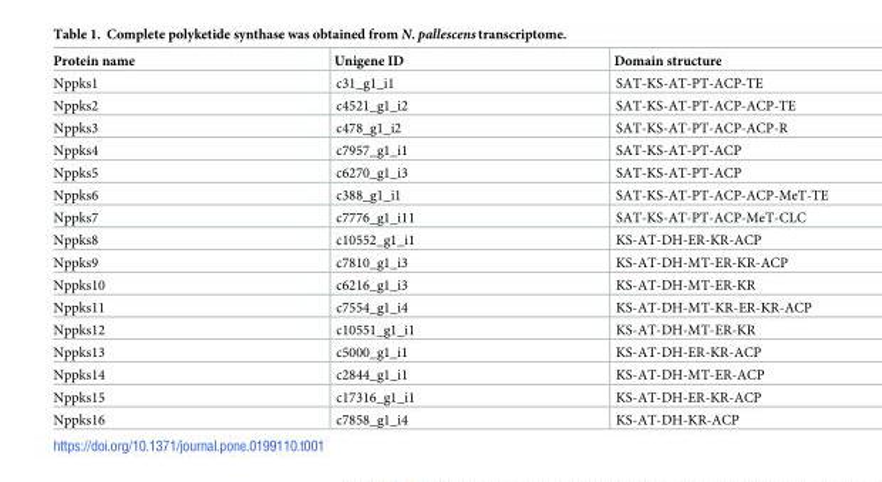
<table><thead><tr><td>Protein name</td><td>Unigene ID</td><td>Domain structure</td></tr></thead><tbody><tr><td>Nppks1</td><td>c31_g1_i1</td><td>SAT-KS-AT-PT-ACP-TE</td></tr><tr><td>Nppks2</td><td>c4521_g1_i2</td><td>SAT-KS-AT-PT-ACP-ACP-TE</td></tr><tr><td>Nppks3</td><td>c478_g1_i2</td><td>SAT-KS-AT-PT-ACP-ACP-R</td></tr><tr><td>Nppks4</td><td>c7957_g1_i1</td><td>SAT-KS-AT-PT-ACP</td></tr><tr><td>Nppks5</td><td>c6270_g1_i3</td><td>SAT-KS-AT-PT-ACP</td></tr><tr><td>Nppks6</td><td>c388_g1_i1</td><td>SAT-KS-AT-PT-ACP-ACP-MeT-TE</td></tr><tr><td>Nppks7</td><td>c7776_g1_i11</td><td>SAT-KS-AT-PT-ACP-MeT-CLC</td></tr><tr><td>Nppks8</td><td>c10552_g1_i1</td><td>KS-AT-DH-ER-KR-ACP</td></tr><tr><td>Nppks9</td><td>c7810_g1_i3</td><td>KS-AT-DH-MT-ER-KR-ACP</td></tr><tr><td>Nppks10</td><td>c6216_g1_i3</td><td>KS-AT-DH-MT-ER-KR</td></tr><tr><td>Nppks11</td><td>c7554_g1_i4</td><td>KS-AT-DH-MT-KR-ER-KR-ACP</td></tr><tr><td>Nppks12</td><td>c10551_g1_i1</td><td>KS-AT-DH-MT-ER-KR</td></tr><tr><td>Nppks13</td><td>c5000_g1_i1</td><td>KS-AT-DH-ER-KR-ACP</td></tr><tr><td>Nppks14</td><td>c2844_g1_i1</td><td>KS-AT-DH-MT-ER-ACP</td></tr><tr><td>Nppks15</td><td>c17316_g1_i1</td><td>KS-AT-DH-ER-KR-ACP</td></tr><tr><td>Nppks16</td><td>c7858_g1_i4</td><td>KS-AT-DH-KR-ACP</td></tr></tbody></table>